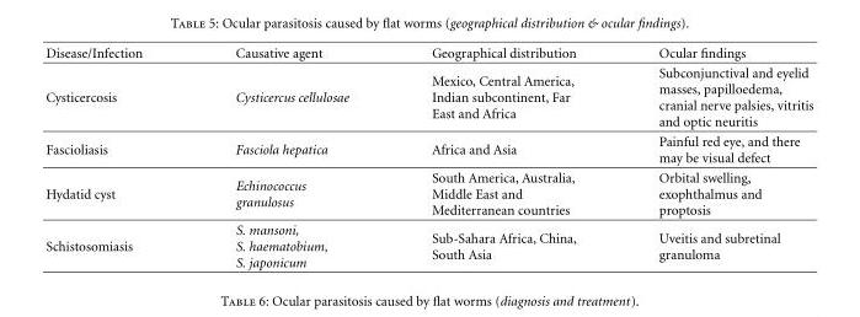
<table><thead><tr><td>Disease/Infection</td><td>Causative agent</td><td>Geographical distribution</td><td>Ocular findings</td></tr></thead><tbody><tr><td>Cysticercosis</td><td>Cysticercus cellulosae</td><td>Mexico, Central America, Indian subcontinent, Far East and Africa</td><td>Subconjunctival and eyelid masses, papilloedema, cranial nerve palsies, vitritis and optic neuritis</td></tr><tr><td>Fascioliasis</td><td>Fasciola hepatica</td><td>Africa and Asia</td><td>Painful red eye, and there may be visual defect</td></tr><tr><td>Hydatid cyst</td><td>Echinococcus granulosus</td><td>South America, Australia, Middle East and Mediterranean countries</td><td>Orbital swelling, exophthalmus and proptosis</td></tr><tr><td>Schistosomiasis</td><td>S. mansoni, S. haematobium, S. japonicum</td><td>Sub-Sahara Africa, China, South Asia</td><td>Uveitis and subretinal granuloma</td></tr></tbody></table>